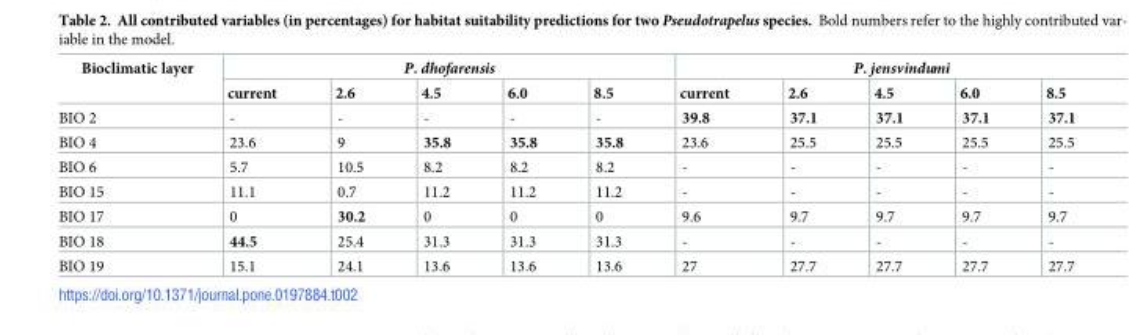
<table><thead><tr><td rowspan="2">Bioclimatic layer</td><td colspan="5">P. dhofarensis</td><td colspan="5">P. jensvindumi</td></tr><tr><td>current</td><td>2.6</td><td>4.5</td><td>6.0</td><td>8.5</td><td>current</td><td>2.6</td><td>4.5</td><td>6.0</td><td>8.5</td></tr></thead><tbody><tr><td>BIO 2</td><td>-</td><td>-</td><td>-</td><td>-</td><td>-</td><td>39.8</td><td>37.1</td><td>37.1</td><td>37.1</td><td>37.1</td></tr><tr><td>BIO 4</td><td>23.6</td><td>9</td><td>35.8</td><td>35.8</td><td>35.8</td><td>23.6</td><td>25.5</td><td>25.5</td><td>25.5</td><td>25.5</td></tr><tr><td>BIO 6</td><td>5.7</td><td>10.5</td><td>8.2</td><td>8.2</td><td>8.2</td><td>-</td><td>-</td><td>-</td><td>-</td><td>-</td></tr><tr><td>BIO 15</td><td>11.1</td><td>0.7</td><td>11.2</td><td>11.2</td><td>11.2</td><td>-</td><td>-</td><td>-</td><td>-</td><td>-</td></tr><tr><td>BIO 17</td><td>0</td><td>30.2</td><td>0</td><td>0</td><td>0</td><td>9.6</td><td>9.7</td><td>9.7</td><td>9.7</td><td>9.7</td></tr><tr><td>BIO 18</td><td>44.5</td><td>25.4</td><td>31.3</td><td>31.3</td><td>31.3</td><td>-</td><td>-</td><td>-</td><td>-</td><td>-</td></tr><tr><td>BIO 19</td><td>15.1</td><td>24.1</td><td>13.6</td><td>13.6</td><td>13.6</td><td>27</td><td>27.7</td><td>27.7</td><td>27.7</td><td>27.7</td></tr></tbody></table>